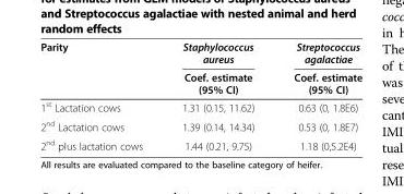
<table><thead><tr><td rowspan="2">Parity</td><td rowspan="2">Staphylococcus aureus Coef. estimate (95% CI)</td><td rowspan="2">Streptococcus agalactiae Coef. estimate (95% CI)</td></tr><tr></tr></thead><tbody><tr><td>1<sup>st</sup> Lactation cows</td><td>1.31 (0.15, 11.62)</td><td>0.63 (0, 1.8E6)</td></tr><tr><td>2<sup>nd</sup> Lactation cows</td><td>1.39 (0.14, 14.34)</td><td>0.53 (0, 1.8E7)</td></tr><tr><td>2<sup>nd</sup> plus lactation cows</td><td>1.44 (0.21, 9.75)</td><td>1.18 (0,5.2E4)</td></tr></tbody></table>